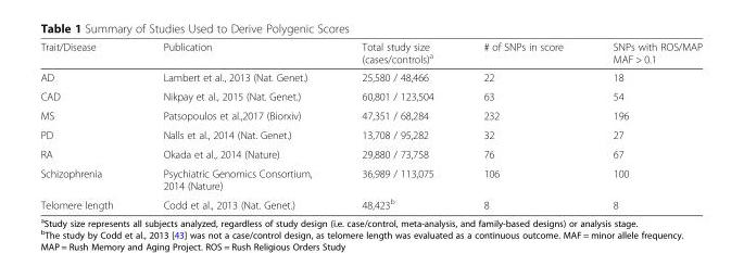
<table><thead><tr><td>Trait/Disease</td><td>Publication</td><td>Total study size (cases/controls)<sup>a</sup></td><td># of SNPs in score</td><td>SNPs with ROS/MAP MAF &gt; 0.1</td></tr></thead><tbody><tr><td>AD</td><td>Lambert et al., 2013 (Nat. Genet.)</td><td>25,580 / 48,466</td><td>22</td><td>18</td></tr><tr><td>CAD</td><td>Nikpay et al., 2015 (Nat. Genet.)</td><td>60,801 / 123,504</td><td>63</td><td>54</td></tr><tr><td>MS</td><td>Patsopoulos et al.,2017 (Biorxiv)</td><td>47,351 / 68,284</td><td>232</td><td>196</td></tr><tr><td>PD</td><td>Nalls et al., 2014 (Nat. Genet.)</td><td>13,708 / 95,282</td><td>32</td><td>27</td></tr><tr><td>RA</td><td>Okada et al., 2014 (Nature)</td><td>29,880 / 73,758</td><td>76</td><td>67</td></tr><tr><td>Schizophrenia</td><td>Psychiatric Genomics Consortium, 2014 (Nature)</td><td>36,989 / 113,075</td><td>106</td><td>100</td></tr><tr><td>Telomere length</td><td>Codd et al., 2013 (Nat. Genet.)</td><td>48,423<sup>b</sup></td><td>8</td><td>8</td></tr></tbody></table>